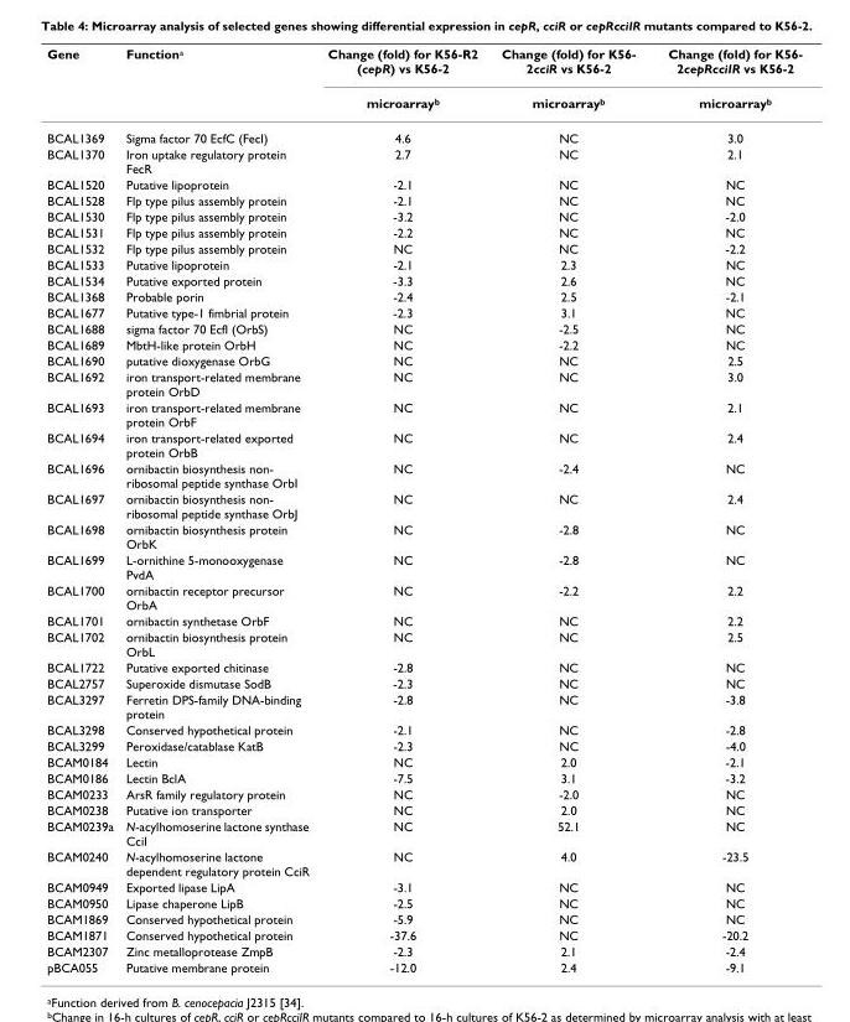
<table><thead><tr><td rowspan="2">Gene</td><td rowspan="2">Function<sup>a</sup></td><td rowspan="2">Change (fold) for K56-R2 (cepR) vs K56-2 microarray<sup>b</sup></td><td rowspan="2">Change (fold) for K56- 2cciR vs K56-2 microarray<sup>b</sup></td><td rowspan="2">Change (fold) for K56- 2cepRcciIR vs K56-2 microarray<sup>b</sup></td></tr><tr></tr></thead><tbody><tr><td>BCAL1369</td><td>Sigma factor 70 EcfC (FecI)</td><td>4.6</td><td>NC</td><td>3.0</td></tr><tr><td>BCAL1370</td><td>Iron uptake regulatory protein FecR</td><td>2.7</td><td>NC</td><td>2.1</td></tr><tr><td>BCAL1520</td><td>Putative lipoprotein</td><td>-2.1</td><td>NC</td><td>NC</td></tr><tr><td>BCAL1528</td><td>Flp type pilus assembly protein</td><td>-2.1</td><td>NC</td><td>NC</td></tr><tr><td>BCAL1530</td><td>Flp type pilus assembly protein</td><td>-3.2</td><td>NC</td><td>-2.0</td></tr><tr><td>BCAL1531</td><td>Flp type pilus assembly protein</td><td>-2.2</td><td>NC</td><td>NC</td></tr><tr><td>BCAL1532</td><td>Flp type pilus assembly protein</td><td>NC</td><td>NC</td><td>-2.2</td></tr><tr><td>BCAL1533</td><td>Putative lipoprotein</td><td>-2.1</td><td>2.3</td><td>NC</td></tr><tr><td>BCAL1534</td><td>Putative exported protein</td><td>-3.3</td><td>2.6</td><td>NC</td></tr><tr><td>BCAL1368</td><td>Probable porin</td><td>-2.4</td><td>2.5</td><td>-2.1</td></tr><tr><td>BCAL1677</td><td>Putative type-1 fimbrial protein</td><td>-2.3</td><td>3.1</td><td>NC</td></tr><tr><td>BCAL1688</td><td>sigma factor 70 EcfI (OrbS)</td><td>NC</td><td>-2.5</td><td>NC</td></tr><tr><td>BCAL1689</td><td>MbtH-like protein OrbH</td><td>NC</td><td>-2.2</td><td>NC</td></tr><tr><td>BCAL1690</td><td>putative dioxygenase OrbG</td><td>NC</td><td>NC</td><td>2.5</td></tr><tr><td>BCAL1692</td><td>iron transport-related membrane protein OrbD</td><td>NC</td><td>NC</td><td>3.0</td></tr><tr><td>BCAL1693</td><td>iron transport-related membrane protein OrbF</td><td>NC</td><td>NC</td><td>2.1</td></tr><tr><td>BCAL1694</td><td>iron transport-related exported protein OrbB</td><td>NC</td><td>NC</td><td>2.4</td></tr><tr><td>BCAL1696</td><td>ornibactin biosynthesis non- ribosomal peptide synthase OrbI</td><td>NC</td><td>-2.4</td><td>NC</td></tr><tr><td>BCAL1697</td><td>ornibactin biosynthesis non- ribosomal peptide synthase OrbJ</td><td>NC</td><td>NC</td><td>2.4</td></tr><tr><td>BCAL1698</td><td>ornibactin biosynthesis protein OrbK</td><td>NC</td><td>-2.8</td><td>NC</td></tr><tr><td>BCAL1699</td><td>L-ornithine 5-monooxygenase PvdA</td><td>NC</td><td>-2.8</td><td>NC</td></tr><tr><td>BCAL1700</td><td>ornibactin receptor precursor OrbA</td><td>NC</td><td>-2.2</td><td>2.2</td></tr><tr><td>BCAL1701</td><td>ornibactin synthetase OrbF</td><td>NC</td><td>NC</td><td>2.2</td></tr><tr><td>BCAL1702</td><td>ornibactin biosynthesis protein OrbL</td><td>NC</td><td>NC</td><td>2.5</td></tr><tr><td>BCAL1722</td><td>Putative exported chitinase</td><td>-2.8</td><td>NC</td><td>NC</td></tr><tr><td>BCAL2757</td><td>Superoxide dismutase SodB</td><td>-2.3</td><td>NC</td><td>NC</td></tr><tr><td>BCAL3297</td><td>Ferretin DPS-family DNA-binding protein</td><td>-2.8</td><td>NC</td><td>-3.8</td></tr><tr><td>BCAL3298</td><td>Conserved hypothetical protein</td><td>-2.1</td><td>NC</td><td>-2.8</td></tr><tr><td>BCAL3299</td><td>Peroxidase/catablase KatB</td><td>-2.3</td><td>NC</td><td>-4.0</td></tr><tr><td>BCAM0184</td><td>Lectin</td><td>NC</td><td>2.0</td><td>-2.1</td></tr><tr><td>BCAM0186</td><td>Lectin BclA</td><td>-7.5</td><td>3.1</td><td>-3.2</td></tr><tr><td>BCAM0233</td><td>ArsR family regulatory protein</td><td>NC</td><td>-2.0</td><td>NC</td></tr><tr><td>BCAM0238</td><td>Putative ion transporter</td><td>NC</td><td>2.0</td><td>NC</td></tr><tr><td>BCAM0239a</td><td>N-acylhomoserine lactone synthase CciI</td><td>NC</td><td>52.1</td><td>NC</td></tr><tr><td>BCAM0240</td><td>N-acylhomoserine lactone dependent regulatory protein CciR</td><td>NC</td><td>4.0</td><td>-23.5</td></tr><tr><td>BCAM0949</td><td>Exported lipase LipA</td><td>-3.1</td><td>NC</td><td>NC</td></tr><tr><td>BCAM0950</td><td>Lipase chaperone LipB</td><td>-2.5</td><td>NC</td><td>NC</td></tr><tr><td>BCAM1869</td><td>Conserved hypothetical protein</td><td>-5.9</td><td>NC</td><td>NC</td></tr><tr><td>BCAM1871</td><td>Conserved hypothetical protein</td><td>-37.6</td><td>NC</td><td>-20.2</td></tr><tr><td>BCAM2307</td><td>Zinc metalloprotease ZmpB</td><td>-2.3</td><td>2.1</td><td>-2.4</td></tr><tr><td>pBCA055</td><td>Putative membrane protein</td><td>-12.0</td><td>2.4</td><td>-9.1</td></tr></tbody></table>